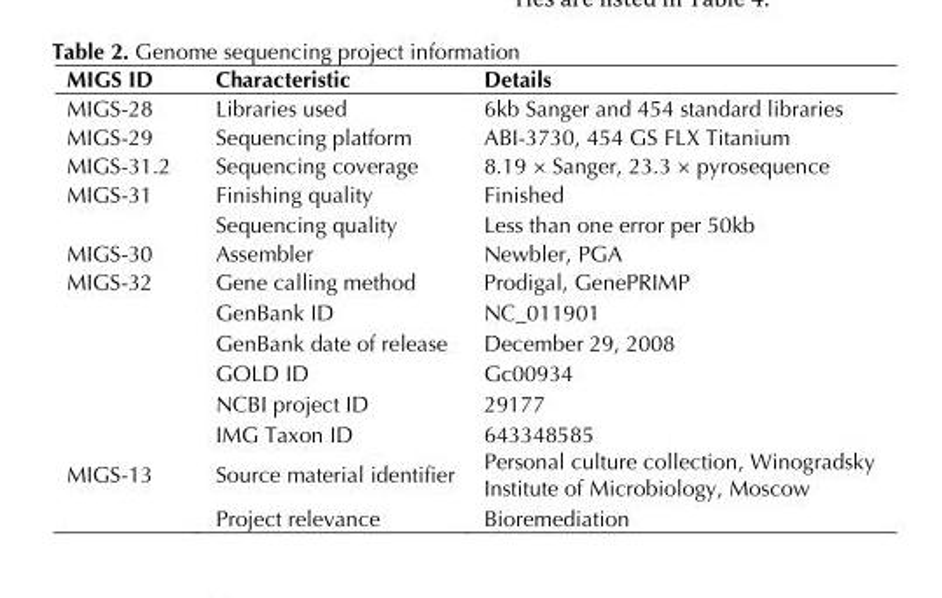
<table><thead><tr><td>MIGS ID</td><td>Characteristic</td><td>Details</td></tr></thead><tbody><tr><td>MIGS-28</td><td>Libraries used</td><td>6kb Sanger and 454 standard libraries</td></tr><tr><td>MIGS-29</td><td>Sequencing platform</td><td>ABI-3730, 454 GS FLX Titanium</td></tr><tr><td>MIGS-31.2</td><td>Sequencing coverage</td><td>8.19 × Sanger, 23.3 × pyrosequence</td></tr><tr><td rowspan="2">MIGS-31</td><td>Finishing quality</td><td>Finished</td></tr><tr><td>Sequencing quality</td><td>Less than one error per 50kb</td></tr><tr><td>MIGS-30</td><td>Assembler</td><td>Newbler, PGA</td></tr><tr><td rowspan="6">MIGS-32</td><td>Gene calling method</td><td>Prodigal, GenePRIMP</td></tr><tr><td>GenBank ID</td><td>NC_011901</td></tr><tr><td>GenBank date of release</td><td>December 29, 2008</td></tr><tr><td>GOLD ID</td><td>Gc00934</td></tr><tr><td>NCBI project ID</td><td>29177</td></tr><tr><td>IMG Taxon ID</td><td>643348585</td></tr><tr><td rowspan="2">MIGS-13</td><td>Source material identifier</td><td>Personal culture collection, Winogradsky Institute of Microbiology, Moscow</td></tr><tr><td>Project relevance</td><td>Bioremediation</td></tr></tbody></table>